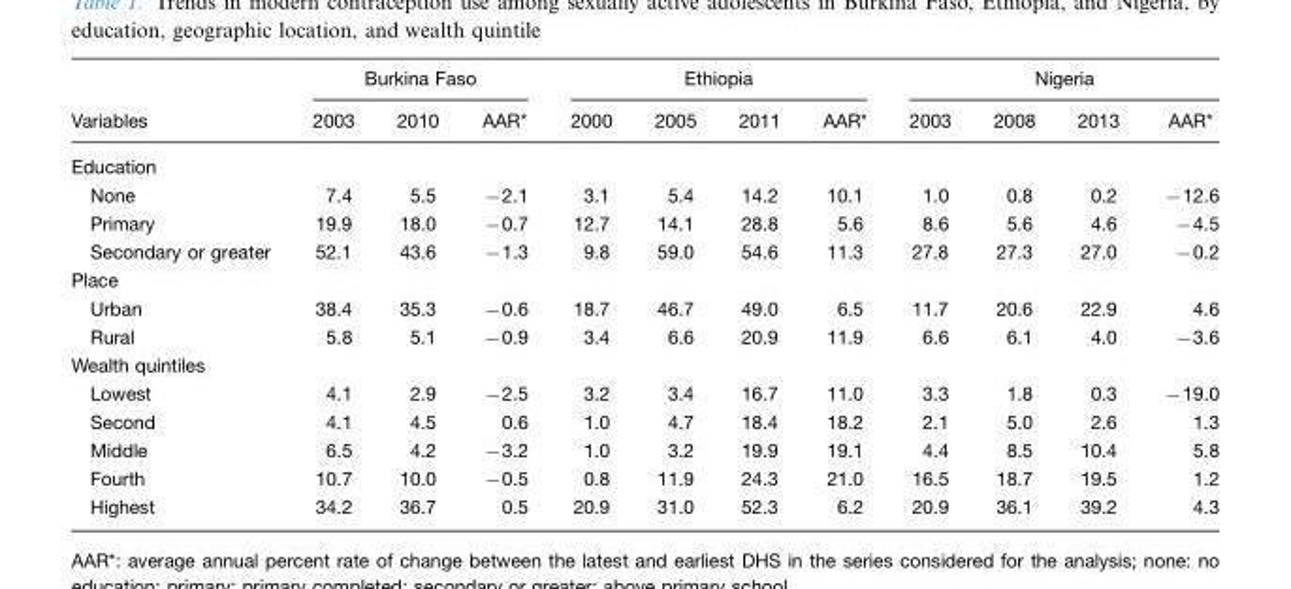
<table><thead><tr><td rowspan="2">Variables</td><td colspan="3">Burkina Faso</td><td colspan="4">Ethiopia</td><td colspan="4">Nigeria</td></tr><tr><td>2003</td><td>2010</td><td>AAR*</td><td>2000</td><td>2005</td><td>2011</td><td>AAR*</td><td>2003</td><td>2008</td><td>2013</td><td>AAR*</td></tr></thead><tbody><tr><td colspan="12">Education</td></tr><tr><td>None</td><td>7.4</td><td>5.5</td><td>−2.1</td><td>3.1</td><td>5.4</td><td>14.2</td><td>10.1</td><td>1.0</td><td>0.8</td><td>0.2</td><td>−12.6</td></tr><tr><td>Primary</td><td>19.9</td><td>18.0</td><td>−0.7</td><td>12.7</td><td>14.1</td><td>28.8</td><td>5.6</td><td>8.6</td><td>5.6</td><td>4.6</td><td>−4.5</td></tr><tr><td>Secondary or greater</td><td>52.1</td><td>43.6</td><td>−1.3</td><td>9.8</td><td>59.0</td><td>54.6</td><td>11.3</td><td>27.8</td><td>27.3</td><td>27.0</td><td>−0.2</td></tr><tr><td colspan="12">Place</td></tr><tr><td>Urban</td><td>38.4</td><td>35.3</td><td>−0.6</td><td>18.7</td><td>46.7</td><td>49.0</td><td>6.5</td><td>11.7</td><td>20.6</td><td>22.9</td><td>4.6</td></tr><tr><td>Rural</td><td>5.8</td><td>5.1</td><td>−0.9</td><td>3.4</td><td>6.6</td><td>20.9</td><td>11.9</td><td>6.6</td><td>6.1</td><td>4.0</td><td>−3.6</td></tr><tr><td colspan="12">Wealth quintiles</td></tr><tr><td>Lowest</td><td>4.1</td><td>2.9</td><td>−2.5</td><td>3.2</td><td>3.4</td><td>16.7</td><td>11.0</td><td>3.3</td><td>1.8</td><td>0.3</td><td>−19.0</td></tr><tr><td>Second</td><td>4.1</td><td>4.5</td><td>0.6</td><td>1.0</td><td>4.7</td><td>18.4</td><td>18.2</td><td>2.1</td><td>5.0</td><td>2.6</td><td>1.3</td></tr><tr><td>Middle</td><td>6.5</td><td>4.2</td><td>−3.2</td><td>1.0</td><td>3.2</td><td>19.9</td><td>19.1</td><td>4.4</td><td>8.5</td><td>10.4</td><td>5.8</td></tr><tr><td>Fourth</td><td>10.7</td><td>10.0</td><td>−0.5</td><td>0.8</td><td>11.9</td><td>24.3</td><td>21.0</td><td>16.5</td><td>18.7</td><td>19.5</td><td>1.2</td></tr><tr><td>Highest</td><td>34.2</td><td>36.7</td><td>0.5</td><td>20.9</td><td>31.0</td><td>52.3</td><td>6.2</td><td>20.9</td><td>36.1</td><td>39.2</td><td>4.3</td></tr></tbody></table>